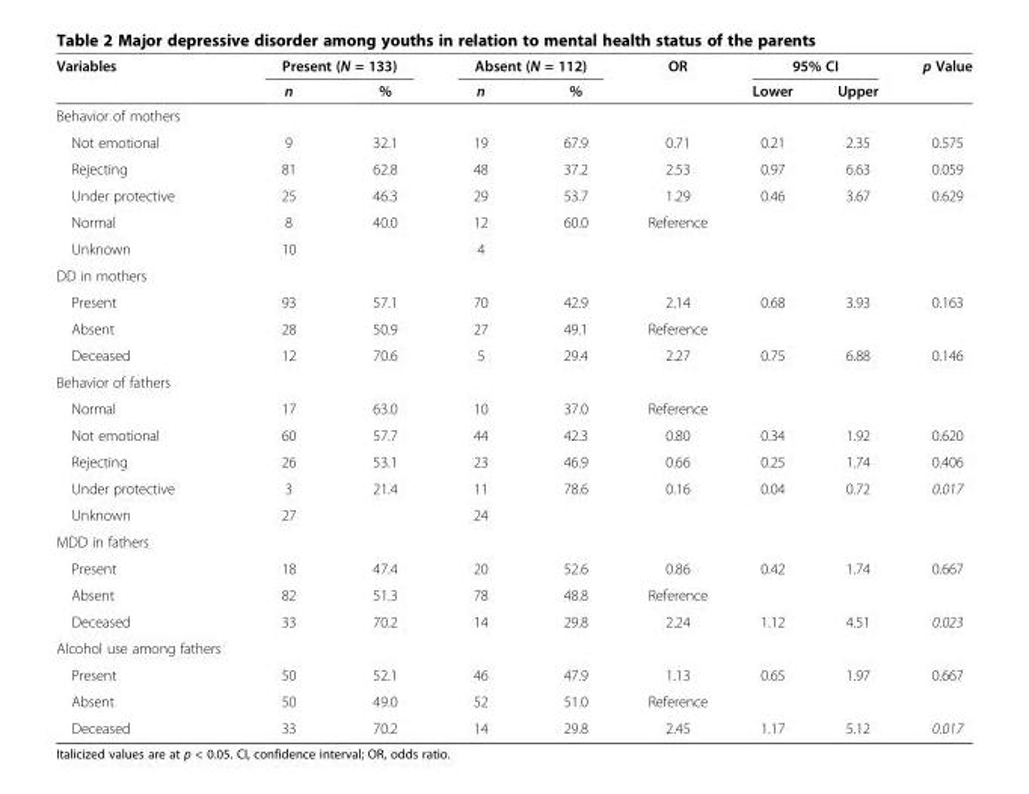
<table><thead><tr><td rowspan="2">Variables</td><td colspan="2">Present (N = 133)</td><td colspan="2">Absent (N = 112)</td><td rowspan="2">OR</td><td colspan="2">95% CI</td><td rowspan="2">p Value</td></tr><tr><td>n</td><td>%</td><td>n</td><td>%</td><td>Lower</td><td>Upper</td></tr></thead><tbody><tr><td colspan="9">Behavior of mothers</td></tr><tr><td>Not emotional</td><td>9</td><td>32.1</td><td>19</td><td>67.9</td><td>0.71</td><td>0.21</td><td>2.35</td><td>0.575</td></tr><tr><td>Rejecting</td><td>81</td><td>62.8</td><td>48</td><td>37.2</td><td>2.53</td><td>0.97</td><td>6.63</td><td>0.059</td></tr><tr><td>Under protective</td><td>25</td><td>46.3</td><td>29</td><td>53.7</td><td>1.29</td><td>0.46</td><td>3.67</td><td>0.629</td></tr><tr><td>Normal</td><td>8</td><td>40.0</td><td>12</td><td>60.0</td><td>Reference</td><td></td><td></td><td></td></tr><tr><td>Unknown</td><td>10</td><td></td><td>4</td><td></td><td></td><td></td><td></td><td></td></tr><tr><td colspan="9">DD in mothers</td></tr><tr><td>Present</td><td>93</td><td>57.1</td><td>70</td><td>42.9</td><td>2.14</td><td>0.68</td><td>3.93</td><td>0.163</td></tr><tr><td>Absent</td><td>28</td><td>50.9</td><td>27</td><td>49.1</td><td>Reference</td><td></td><td></td><td></td></tr><tr><td>Deceased</td><td>12</td><td>70.6</td><td>5</td><td>29.4</td><td>2.27</td><td>0.75</td><td>6.88</td><td>0.146</td></tr><tr><td colspan="9">Behavior of fathers</td></tr><tr><td>Normal</td><td>17</td><td>63.0</td><td>10</td><td>37.0</td><td>Reference</td><td></td><td></td><td></td></tr><tr><td>Not emotional</td><td>60</td><td>57.7</td><td>44</td><td>42.3</td><td>0.80</td><td>0.34</td><td>1.92</td><td>0.620</td></tr><tr><td>Rejecting</td><td>26</td><td>53.1</td><td>23</td><td>46.9</td><td>0.66</td><td>0.25</td><td>1.74</td><td>0.406</td></tr><tr><td>Under protective</td><td>3</td><td>21.4</td><td>11</td><td>78.6</td><td>0.16</td><td>0.04</td><td>0.72</td><td>0.017</td></tr><tr><td>Unknown</td><td>27</td><td></td><td>24</td><td></td><td></td><td></td><td></td><td></td></tr><tr><td colspan="9">MDD in fathers</td></tr><tr><td>Present</td><td>18</td><td>47.4</td><td>20</td><td>52.6</td><td>0.86</td><td>0.42</td><td>1.74</td><td>0.667</td></tr><tr><td>Absent</td><td>82</td><td>51.3</td><td>78</td><td>48.8</td><td>Reference</td><td></td><td></td><td></td></tr><tr><td>Deceased</td><td>33</td><td>70.2</td><td>14</td><td>29.8</td><td>2.24</td><td>1.12</td><td>4.51</td><td>0.023</td></tr><tr><td colspan="9">Alcohol use among fathers</td></tr><tr><td>Present</td><td>50</td><td>52.1</td><td>46</td><td>47.9</td><td>1.13</td><td>0.65</td><td>1.97</td><td>0.667</td></tr><tr><td>Absent</td><td>50</td><td>49.0</td><td>52</td><td>51.0</td><td>Reference</td><td></td><td></td><td></td></tr><tr><td>Deceased</td><td>33</td><td>70.2</td><td>14</td><td>29.8</td><td>2.45</td><td>1.17</td><td>5.12</td><td>0.017</td></tr></tbody></table>